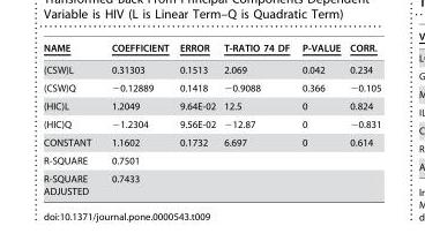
<table><thead><tr><td>NAME</td><td>COEFFICIENT</td><td>ERROR</td><td>T-RATIO 74 DF</td><td>P-VALUE</td><td>CORR.</td></tr></thead><tbody><tr><td>(CSW)L</td><td>0.31303</td><td>0.1513</td><td>2.069</td><td>0.042</td><td>0.234</td></tr><tr><td>(CSW)Q</td><td>−0.12889</td><td>0.1418</td><td>−0.9088</td><td>0.366</td><td>−0.105</td></tr><tr><td>(HIC)L</td><td>1.2049</td><td>9.64E-02</td><td>12.5</td><td>0</td><td>0.824</td></tr><tr><td>(HIC)Q</td><td>−1.2304</td><td>9.56E-02</td><td>−12.87</td><td>0</td><td>−0.831</td></tr><tr><td>CONSTANT</td><td>1.1602</td><td>0.1732</td><td>6.697</td><td>0</td><td>0.614</td></tr><tr><td>R-SQUARE</td><td>0.7501</td><td></td><td></td><td></td><td></td></tr><tr><td>R-SQUARE ADJUSTED</td><td>0.7433</td><td></td><td></td><td></td><td></td></tr></tbody></table>